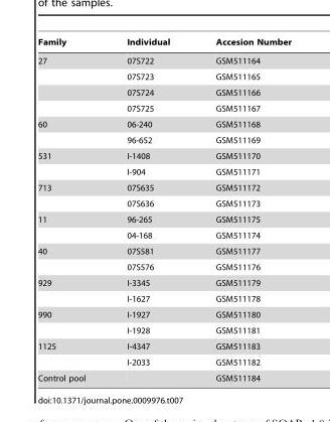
<table><thead><tr><td>Family</td><td>Individual</td><td>Accesion Number</td></tr></thead><tbody><tr><td rowspan="4">27</td><td>07S722</td><td>GSM511164</td></tr><tr><td>07S723</td><td>GSM511165</td></tr><tr><td>07S724</td><td>GSM511166</td></tr><tr><td>07S725</td><td>GSM511167</td></tr><tr><td rowspan="2">60</td><td>06-240</td><td>GSM511168</td></tr><tr><td>96-652</td><td>GSM511169</td></tr><tr><td rowspan="2">531</td><td>I-1408</td><td>GSM511170</td></tr><tr><td>I-904</td><td>GSM511171</td></tr><tr><td rowspan="2">713</td><td>07S635</td><td>GSM511172</td></tr><tr><td>07S636</td><td>GSM511173</td></tr><tr><td rowspan="2">11</td><td>96-265</td><td>GSM511175</td></tr><tr><td>04-168</td><td>GSM511174</td></tr><tr><td rowspan="2">40</td><td>07S581</td><td>GSM511177</td></tr><tr><td>07S576</td><td>GSM511176</td></tr><tr><td rowspan="2">929</td><td>I-3345</td><td>GSM511179</td></tr><tr><td>I-1627</td><td>GSM511178</td></tr><tr><td rowspan="2">990</td><td>I-1927</td><td>GSM511180</td></tr><tr><td>I-1928</td><td>GSM511181</td></tr><tr><td rowspan="2">1125</td><td>I-4347</td><td>GSM511183</td></tr><tr><td>I-2033</td><td>GSM511182</td></tr><tr><td>Control pool</td><td></td><td>GSM511184</td></tr></tbody></table>